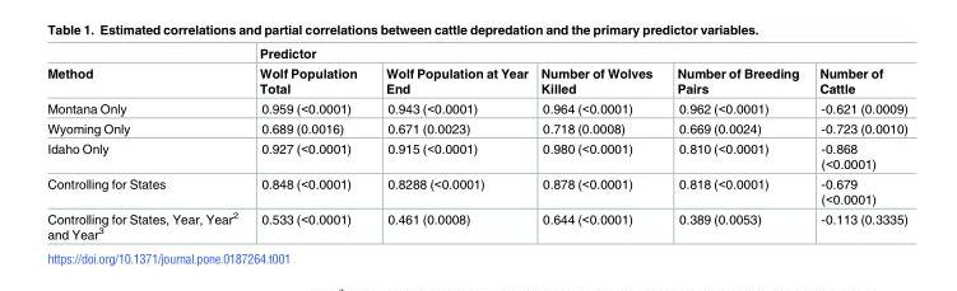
<table><thead><tr><td rowspan="2">Method</td><td colspan="5">Predictor</td></tr><tr><td>Wolf Population Total</td><td>Wolf Population at Year End</td><td>Number of Wolves Killed</td><td>Number of Breeding Pairs</td><td>Number of Cattle</td></tr></thead><tbody><tr><td>Montana Only</td><td>0.959 (&lt;0.0001)</td><td>0.943 (&lt;0.0001)</td><td>0.964 (&lt;0.0001)</td><td>0.962 (&lt;0.0001)</td><td>-0.621 (0.0009)</td></tr><tr><td>Wyoming Only</td><td>0.689 (0.0016)</td><td>0.671 (0.0023)</td><td>0.718 (0.0008)</td><td>0.669 (0.0024)</td><td>-0.723 (0.0010)</td></tr><tr><td>Idaho Only</td><td>0.927 (&lt;0.0001)</td><td>0.915 (&lt;0.0001)</td><td>0.980 (&lt;0.0001)</td><td>0.810 (&lt;0.0001)</td><td>-0.868 (&lt;0.0001)</td></tr><tr><td>Controlling for States</td><td>0.848 (&lt;0.0001)</td><td>0.8288 (&lt;0.0001)</td><td>0.878 (&lt;0.0001)</td><td>0.818 (&lt;0.0001)</td><td>-0.679 (&lt;0.0001)</td></tr><tr><td>Controlling for States, Year, Year<sup>2</sup> and Year<sup>3</sup></td><td>0.533 (&lt;0.0001)</td><td>0.461 (0.0008)</td><td>0.644 (&lt;0.0001)</td><td>0.389 (0.0053)</td><td>-0.113 (0.3335)</td></tr></tbody></table>